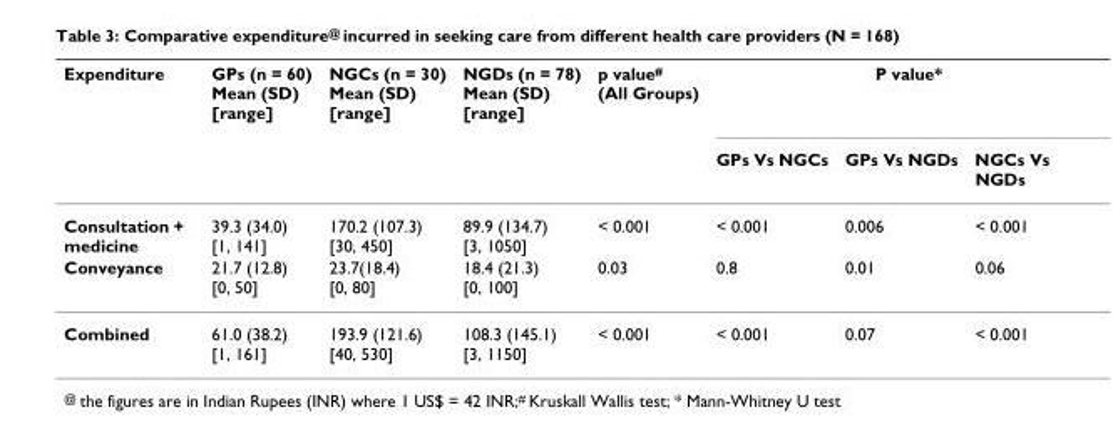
<table><thead><tr><td rowspan="2">Expenditure</td><td rowspan="2">GPs (n = 60) Mean (SD) [range]</td><td rowspan="2">NGCs (n = 30) Mean (SD) [range]</td><td rowspan="2">NGDs (n = 78) Mean (SD) [range]</td><td rowspan="2">p value<sup>#</sup> (All Groups)</td><td colspan="3">P value*</td></tr><tr><td>GPs Vs NGCs</td><td>GPs Vs NGDs</td><td>NGCs Vs NGDs</td></tr></thead><tbody><tr><td>Consultation + medicine</td><td>39.3 (34.0) [1, 141]</td><td>170.2 (107.3) [30, 450]</td><td>89.9 (134.7) [3, 1050]</td><td>&lt; 0.001</td><td>&lt; 0.001</td><td>0.006</td><td>&lt; 0.001</td></tr><tr><td>Conveyance</td><td>21.7 (12.8) [0, 50]</td><td>23.7(18.4) [0, 80]</td><td>18.4 (21.3) [0, 100]</td><td>0.03</td><td>0.8</td><td>0.01</td><td>0.06</td></tr><tr><td>Combined</td><td>61.0 (38.2) [1, 161]</td><td>193.9 (121.6) [40, 530]</td><td>108.3 (145.1) [3, 1150]</td><td>&lt; 0.001</td><td>&lt; 0.001</td><td>0.07</td><td>&lt; 0.001</td></tr></tbody></table>